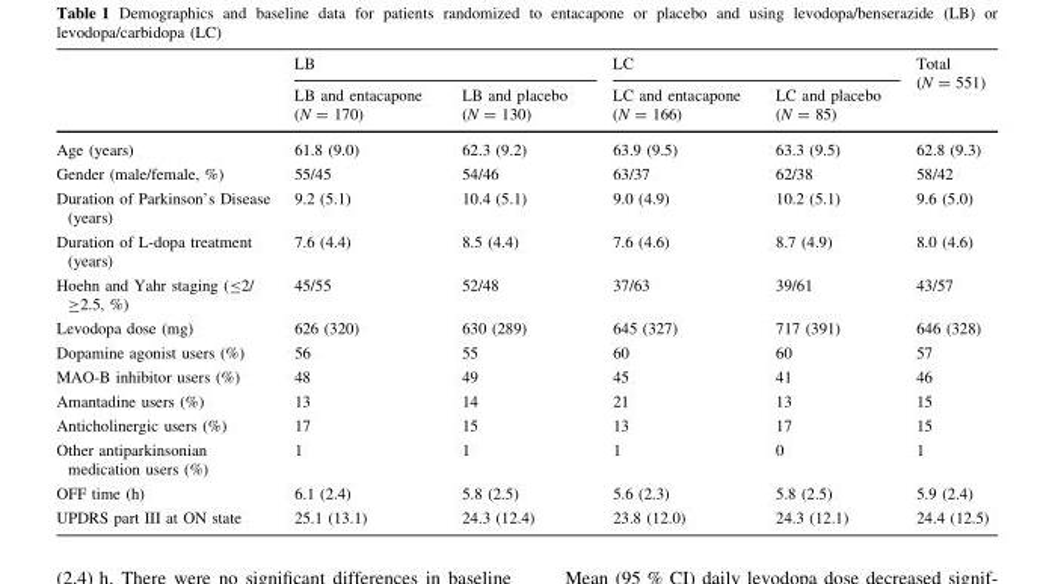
<table><thead><tr><td rowspan="2"></td><td colspan="2">LB</td><td colspan="2">LC</td><td rowspan="2">Total (N = 551)</td></tr><tr><td>LB and entacapone (N = 170)</td><td>LB and placebo (N = 130)</td><td>LC and entacapone (N = 166)</td><td>LC and placebo (N = 85)</td></tr></thead><tbody><tr><td>Age (years)</td><td>61.8 (9.0)</td><td>62.3 (9.2)</td><td>63.9 (9.5)</td><td>63.3 (9.5)</td><td>62.8 (9.3)</td></tr><tr><td>Gender (male/female, %)</td><td>55/45</td><td>54/46</td><td>63/37</td><td>62/38</td><td>58/42</td></tr><tr><td>Duration of Parkinson’s Disease (years)</td><td>9.2 (5.1)</td><td>10.4 (5.1)</td><td>9.0 (4.9)</td><td>10.2 (5.1)</td><td>9.6 (5.0)</td></tr><tr><td>Duration of L-dopa treatment (years)</td><td>7.6 (4.4)</td><td>8.5 (4.4)</td><td>7.6 (4.6)</td><td>8.7 (4.9)</td><td>8.0 (4.6)</td></tr><tr><td>Hoehn and Yahr staging (≤2/ ≥2.5, %)</td><td>45/55</td><td>52/48</td><td>37/63</td><td>39/61</td><td>43/57</td></tr><tr><td>Levodopa dose (mg)</td><td>626 (320)</td><td>630 (289)</td><td>645 (327)</td><td>717 (391)</td><td>646 (328)</td></tr><tr><td>Dopamine agonist users (%)</td><td>56</td><td>55</td><td>60</td><td>60</td><td>57</td></tr><tr><td>MAO-B inhibitor users (%)</td><td>48</td><td>49</td><td>45</td><td>41</td><td>46</td></tr><tr><td>Amantadine users (%)</td><td>13</td><td>14</td><td>21</td><td>13</td><td>15</td></tr><tr><td>Anticholinergic users (%)</td><td>17</td><td>15</td><td>13</td><td>17</td><td>15</td></tr><tr><td>Other antiparkinsonian medication users (%)</td><td>1</td><td>1</td><td>1</td><td>0</td><td>1</td></tr><tr><td>OFF time (h)</td><td>6.1 (2.4)</td><td>5.8 (2.5)</td><td>5.6 (2.3)</td><td>5.8 (2.5)</td><td>5.9 (2.4)</td></tr><tr><td>UPDRS part III at ON state</td><td>25.1 (13.1)</td><td>24.3 (12.4)</td><td>23.8 (12.0)</td><td>24.3 (12.1)</td><td>24.4 (12.5)</td></tr></tbody></table>